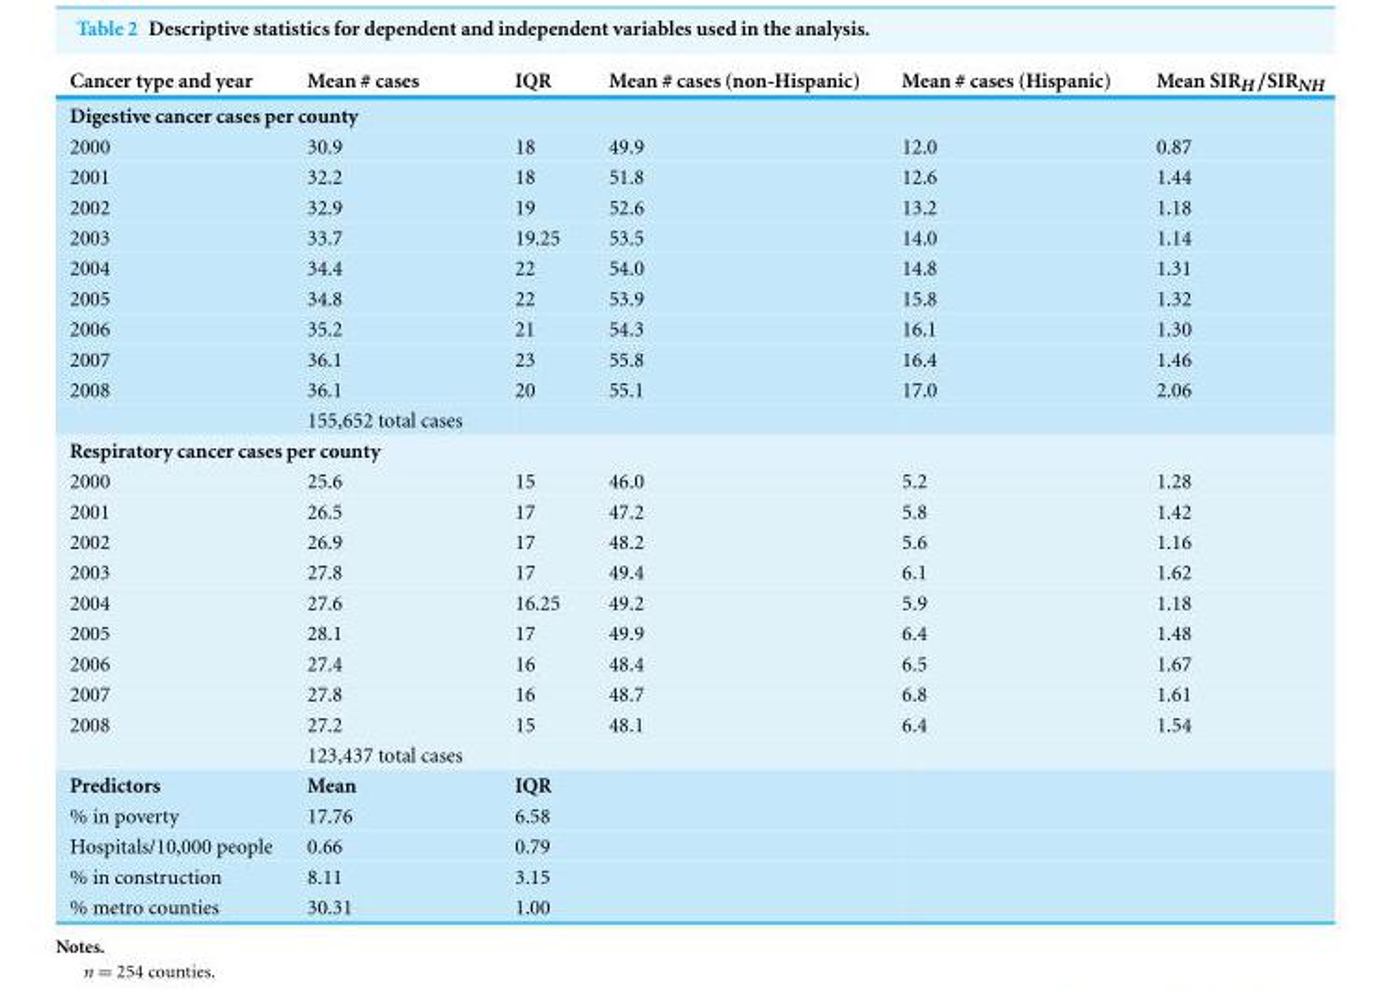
<table><thead><tr><td>Cancer type and year</td><td>Mean # cases</td><td>IQR</td><td>Mean # cases (non-Hispanic)</td><td>Mean # cases (Hispanic)</td><td>Mean SIR<sub>H</sub>/SIR<sub>NH</sub></td></tr></thead><tbody><tr><td colspan="6">Digestive cancer cases per county</td></tr><tr><td>2000</td><td>30.9</td><td>18</td><td>49.9</td><td>12.0</td><td>0.87</td></tr><tr><td>2001</td><td>32.2</td><td>18</td><td>51.8</td><td>12.6</td><td>1.44</td></tr><tr><td>2002</td><td>32.9</td><td>19</td><td>52.6</td><td>13.2</td><td>1.18</td></tr><tr><td>2003</td><td>33.7</td><td>19.25</td><td>53.5</td><td>14.0</td><td>1.14</td></tr><tr><td>2004</td><td>34.4</td><td>22</td><td>54.0</td><td>14.8</td><td>1.31</td></tr><tr><td>2005</td><td>34.8</td><td>22</td><td>53.9</td><td>15.8</td><td>1.32</td></tr><tr><td>2006</td><td>35.2</td><td>21</td><td>54.3</td><td>16.1</td><td>1.30</td></tr><tr><td>2007</td><td>36.1</td><td>23</td><td>55.8</td><td>16.4</td><td>1.46</td></tr><tr><td rowspan="2">2008</td><td>36.1</td><td>20</td><td>55.1</td><td>17.0</td><td>2.06</td></tr><tr><td>155,652 total cases</td><td></td><td></td><td></td><td></td></tr><tr><td colspan="6">Respiratory cancer cases per county</td></tr><tr><td>2000</td><td>25.6</td><td>15</td><td>46.0</td><td>5.2</td><td>1.28</td></tr><tr><td>2001</td><td>26.5</td><td>17</td><td>47.2</td><td>5.8</td><td>1.42</td></tr><tr><td>2002</td><td>26.9</td><td>17</td><td>48.2</td><td>5.6</td><td>1.16</td></tr><tr><td>2003</td><td>27.8</td><td>17</td><td>49.4</td><td>6.1</td><td>1.62</td></tr><tr><td>2004</td><td>27.6</td><td>16.25</td><td>49.2</td><td>5.9</td><td>1.18</td></tr><tr><td>2005</td><td>28.1</td><td>17</td><td>49.9</td><td>6.4</td><td>1.48</td></tr><tr><td>2006</td><td>27.4</td><td>16</td><td>48.4</td><td>6.5</td><td>1.67</td></tr><tr><td>2007</td><td>27.8</td><td>16</td><td>48.7</td><td>6.8</td><td>1.61</td></tr><tr><td rowspan="2">2008</td><td>27.2</td><td>15</td><td>48.1</td><td>6.4</td><td>1.54</td></tr><tr><td>123,437 total cases</td><td></td><td></td><td></td><td></td></tr><tr><td>Predictors</td><td>Mean</td><td>IQR</td><td></td><td></td><td></td></tr><tr><td>% in poverty</td><td>17.76</td><td>6.58</td><td></td><td></td><td></td></tr><tr><td>Hospitals/10,000 people</td><td>0.66</td><td>0.79</td><td></td><td></td><td></td></tr><tr><td>% in construction</td><td>8.11</td><td>3.15</td><td></td><td></td><td></td></tr><tr><td>% metro counties</td><td>30.31</td><td>1.00</td><td></td><td></td><td></td></tr></tbody></table>